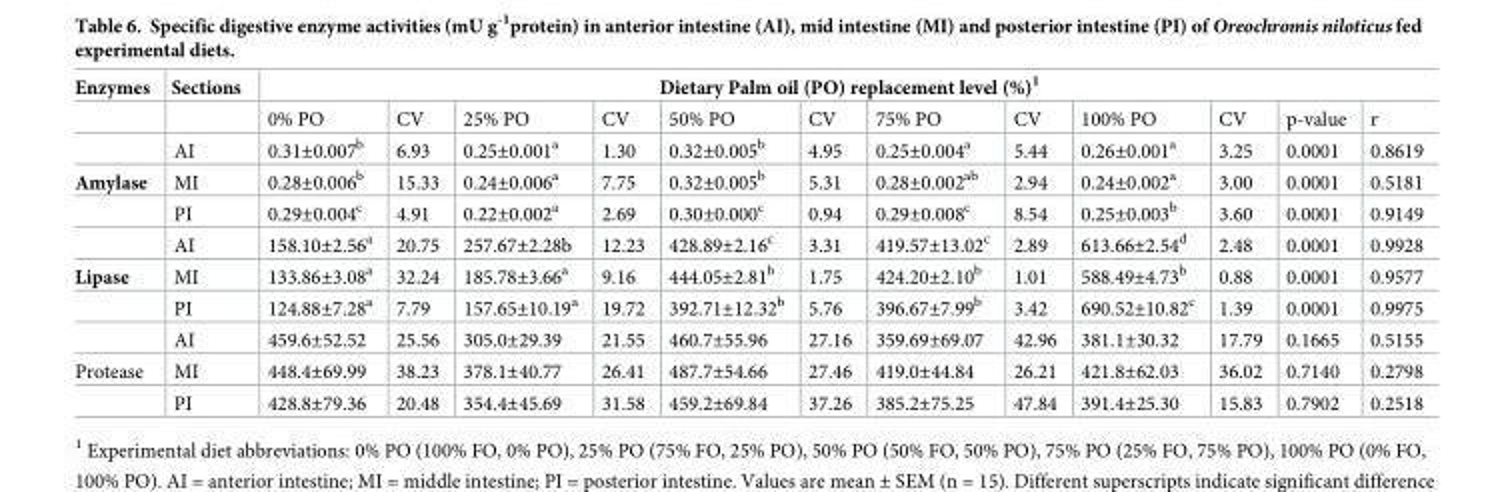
<table><thead><tr><td rowspan="2">Enzymes</td><td rowspan="2">Sections</td><td colspan="12">Dietary Palm oil (PO) replacement level (%)<sup>1</sup></td></tr><tr><td>0% PO</td><td>CV</td><td>25% PO</td><td>CV</td><td>50% PO</td><td>CV</td><td>75% PO</td><td>CV</td><td>100% PO</td><td>CV</td><td>p-value</td><td>r</td></tr></thead><tbody><tr><td></td><td>AI</td><td>0.31±0.007<sup>b</sup></td><td>6.93</td><td>0.25±0.001<sup>a</sup></td><td>1.30</td><td>0.32±0.005<sup>b</sup></td><td>4.95</td><td>0.25±0.004<sup>a</sup></td><td>5.44</td><td>0.26±0.001<sup>a</sup></td><td>3.25</td><td>0.0001</td><td>0.8619</td></tr><tr><td rowspan="3">Amylase</td><td>MI</td><td>0.28±0.006<sup>b</sup></td><td>15.33</td><td>0.24±0.006<sup>a</sup></td><td>7.75</td><td>0.32±0.005<sup>b</sup></td><td>5.31</td><td>0.28±0.002<sup>ab</sup></td><td>2.94</td><td>0.24±0.002<sup>a</sup></td><td>3.00</td><td>0.0001</td><td>0.5181</td></tr><tr><td>PI</td><td>0.29±0.004<sup>c</sup></td><td>4.91</td><td>0.22±0.002<sup>a</sup></td><td>2.69</td><td>0.30±0.000<sup>c</sup></td><td>0.94</td><td>0.29±0.008<sup>c</sup></td><td>8.54</td><td>0.25±0.003<sup>b</sup></td><td>3.60</td><td>0.0001</td><td>0.9149</td></tr><tr><td>AI</td><td>158.10±2.56<sup>a</sup></td><td>20.75</td><td>257.67±2.28b</td><td>12.23</td><td>428.89±2.16<sup>c</sup></td><td>3.31</td><td>419.57±13.02<sup>c</sup></td><td>2.89</td><td>613.66±2.54<sup>d</sup></td><td>2.48</td><td>0.0001</td><td>0.9928</td></tr><tr><td rowspan="3">Lipase</td><td>MI</td><td>133.86±3.08<sup>a</sup></td><td>32.24</td><td>185.78±3.66<sup>a</sup></td><td>9.16</td><td>444.05±2.81<sup>b</sup></td><td>1.75</td><td>424.20±2.10<sup>b</sup></td><td>1.01</td><td>588.49±4.73<sup>b</sup></td><td>0.88</td><td>0.0001</td><td>0.9577</td></tr><tr><td>PI</td><td>124.88±7.28<sup>a</sup></td><td>7.79</td><td>157.65±10.19<sup>a</sup></td><td>19.72</td><td>392.71±12.32<sup>b</sup></td><td>5.76</td><td>396.67±7.99<sup>b</sup></td><td>3.42</td><td>690.52±10.82<sup>c</sup></td><td>1.39</td><td>0.0001</td><td>0.9975</td></tr><tr><td>AI</td><td>459.6±52.52</td><td>25.56</td><td>305.0±29.39</td><td>21.55</td><td>460.7±55.96</td><td>27.16</td><td>359.69±69.07</td><td>42.96</td><td>381.1±30.32</td><td>17.79</td><td>0.1665</td><td>0.5155</td></tr><tr><td rowspan="2">Protease</td><td>MI</td><td>448.4±69.99</td><td>38.23</td><td>378.1±40.77</td><td>26.41</td><td>487.7±54.66</td><td>27.46</td><td>419.0±44.84</td><td>26.21</td><td>421.8±62.03</td><td>36.02</td><td>0.7140</td><td>0.2798</td></tr><tr><td>PI</td><td>428.8±79.36</td><td>20.48</td><td>354.4±45.69</td><td>31.58</td><td>459.2±69.84</td><td>37.26</td><td>385.2±75.25</td><td>47.84</td><td>391.4±25.30</td><td>15.83</td><td>0.7902</td><td>0.2518</td></tr></tbody></table>